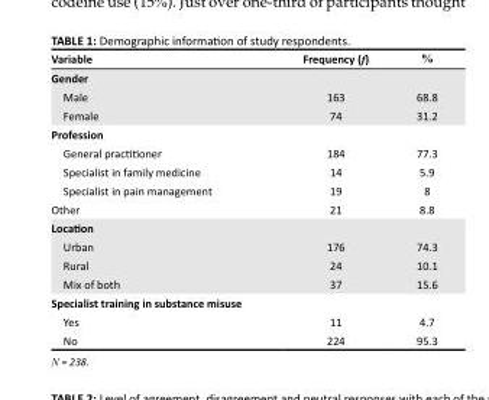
<table><thead><tr><td>Variable</td><td>Frequency (f)</td><td>%</td></tr></thead><tbody><tr><td colspan="3">Gender</td></tr><tr><td>Male</td><td>163</td><td>68.8</td></tr><tr><td>Female</td><td>74</td><td>31.2</td></tr><tr><td colspan="3">Profession</td></tr><tr><td>General practitioner</td><td>184</td><td>77.3</td></tr><tr><td>Specialist in family medicine</td><td>14</td><td>5.9</td></tr><tr><td>Specialist in pain management</td><td>19</td><td>8</td></tr><tr><td>Other</td><td>21</td><td>8.8</td></tr><tr><td colspan="3">Location</td></tr><tr><td>Urban</td><td>176</td><td>74.3</td></tr><tr><td>Rural</td><td>24</td><td>10.1</td></tr><tr><td>Mix of both</td><td>37</td><td>15.6</td></tr><tr><td colspan="3">Specialist training in substance misuse</td></tr><tr><td>Yes</td><td>11</td><td>4.7</td></tr><tr><td>No</td><td>224</td><td>95.3</td></tr></tbody></table>